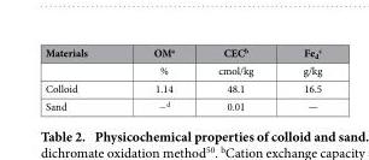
<table><thead><tr><td>Materials</td><td>OM<sup>a</sup></td><td>CEC<sup>b</sup></td><td>Fe<sub>d</sub> <sup>c</sup></td></tr></thead><tbody><tr><td></td><td>%</td><td>cmol/kg</td><td>g/kg</td></tr><tr><td>Colloid</td><td>1.14</td><td>48.1</td><td>16.5</td></tr><tr><td>Sand</td><td>− d</td><td>0.01</td><td>—</td></tr></tbody></table>